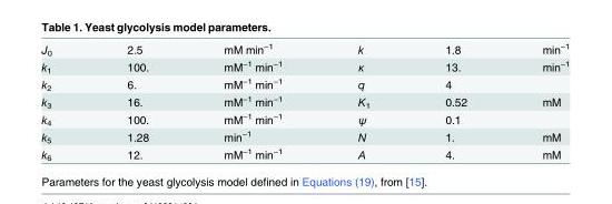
<table><tbody><tr><td>J<sub>0</sub></td><td>2.5</td><td>mM min<sup>−1</sup></td><td>k</td><td>1.8</td><td>min<sup>−1</sup></td></tr><tr><td>k<sub>1</sub></td><td>100.</td><td>mM<sup>−1</sup> min<sup>−1</sup></td><td>κ</td><td>13.</td><td>min<sup>−1</sup></td></tr><tr><td>k<sub>2</sub></td><td>6.</td><td>mM<sup>−1</sup> min<sup>−1</sup></td><td>q</td><td>4</td><td></td></tr><tr><td>k<sub>3</sub></td><td>16.</td><td>mM<sup>−1</sup> min<sup>−1</sup></td><td>K<sub>1</sub></td><td>0.52</td><td>mM</td></tr><tr><td>k<sub>4</sub></td><td>100.</td><td>mM<sup>−1</sup> min<sup>−1</sup></td><td>ψ</td><td>0.1</td><td></td></tr><tr><td>k<sub>5</sub></td><td>1.28</td><td>min<sup>−1</sup></td><td>N</td><td>1.</td><td>mM</td></tr><tr><td>k<sub>6</sub></td><td>12.</td><td>mM<sup>−1</sup> min<sup>−1</sup></td><td>A</td><td>4.</td><td>mM</td></tr></tbody></table>